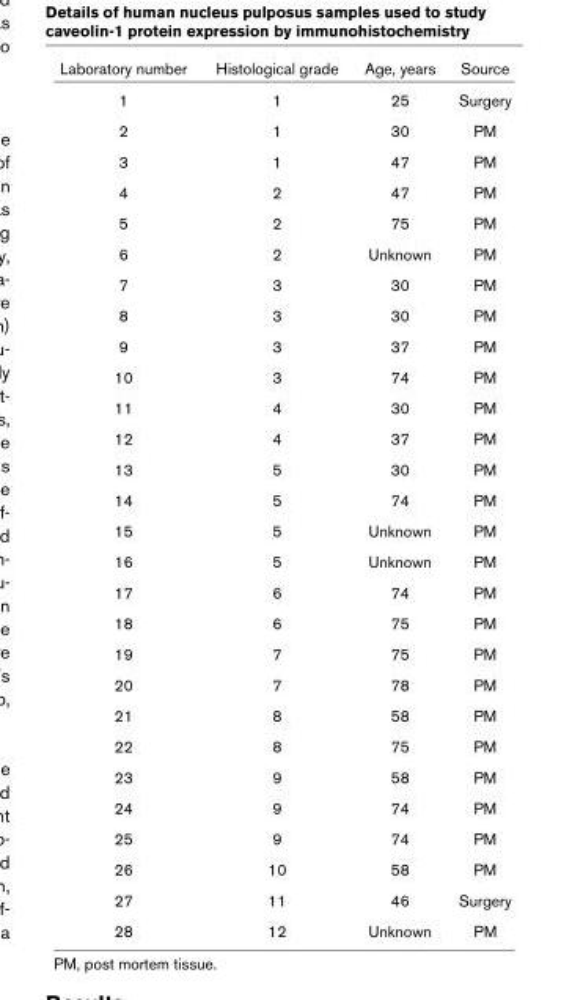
<table><thead><tr><td>Laboratory number</td><td>Histological grade</td><td>Age, years</td><td>Source</td></tr></thead><tbody><tr><td>1</td><td>1</td><td>25</td><td>Surgery</td></tr><tr><td>2</td><td>1</td><td>30</td><td>PM</td></tr><tr><td>3</td><td>1</td><td>47</td><td>PM</td></tr><tr><td>4</td><td>2</td><td>47</td><td>PM</td></tr><tr><td>5</td><td>2</td><td>75</td><td>PM</td></tr><tr><td>6</td><td>2</td><td>Unknown</td><td>PM</td></tr><tr><td>7</td><td>3</td><td>30</td><td>PM</td></tr><tr><td>8</td><td>3</td><td>30</td><td>PM</td></tr><tr><td>9</td><td>3</td><td>37</td><td>PM</td></tr><tr><td>10</td><td>3</td><td>74</td><td>PM</td></tr><tr><td>11</td><td>4</td><td>30</td><td>PM</td></tr><tr><td>12</td><td>4</td><td>37</td><td>PM</td></tr><tr><td>13</td><td>5</td><td>30</td><td>PM</td></tr><tr><td>14</td><td>5</td><td>74</td><td>PM</td></tr><tr><td>15</td><td>5</td><td>Unknown</td><td>PM</td></tr><tr><td>16</td><td>5</td><td>Unknown</td><td>PM</td></tr><tr><td>17</td><td>6</td><td>74</td><td>PM</td></tr><tr><td>18</td><td>6</td><td>75</td><td>PM</td></tr><tr><td>19</td><td>7</td><td>75</td><td>PM</td></tr><tr><td>20</td><td>7</td><td>78</td><td>PM</td></tr><tr><td>21</td><td>8</td><td>58</td><td>PM</td></tr><tr><td>22</td><td>8</td><td>75</td><td>PM</td></tr><tr><td>23</td><td>9</td><td>58</td><td>PM</td></tr><tr><td>24</td><td>9</td><td>74</td><td>PM</td></tr><tr><td>25</td><td>9</td><td>74</td><td>PM</td></tr><tr><td>26</td><td>10</td><td>58</td><td>PM</td></tr><tr><td>27</td><td>11</td><td>46</td><td>Surgery</td></tr><tr><td>28</td><td>12</td><td>Unknown</td><td>PM</td></tr></tbody></table>